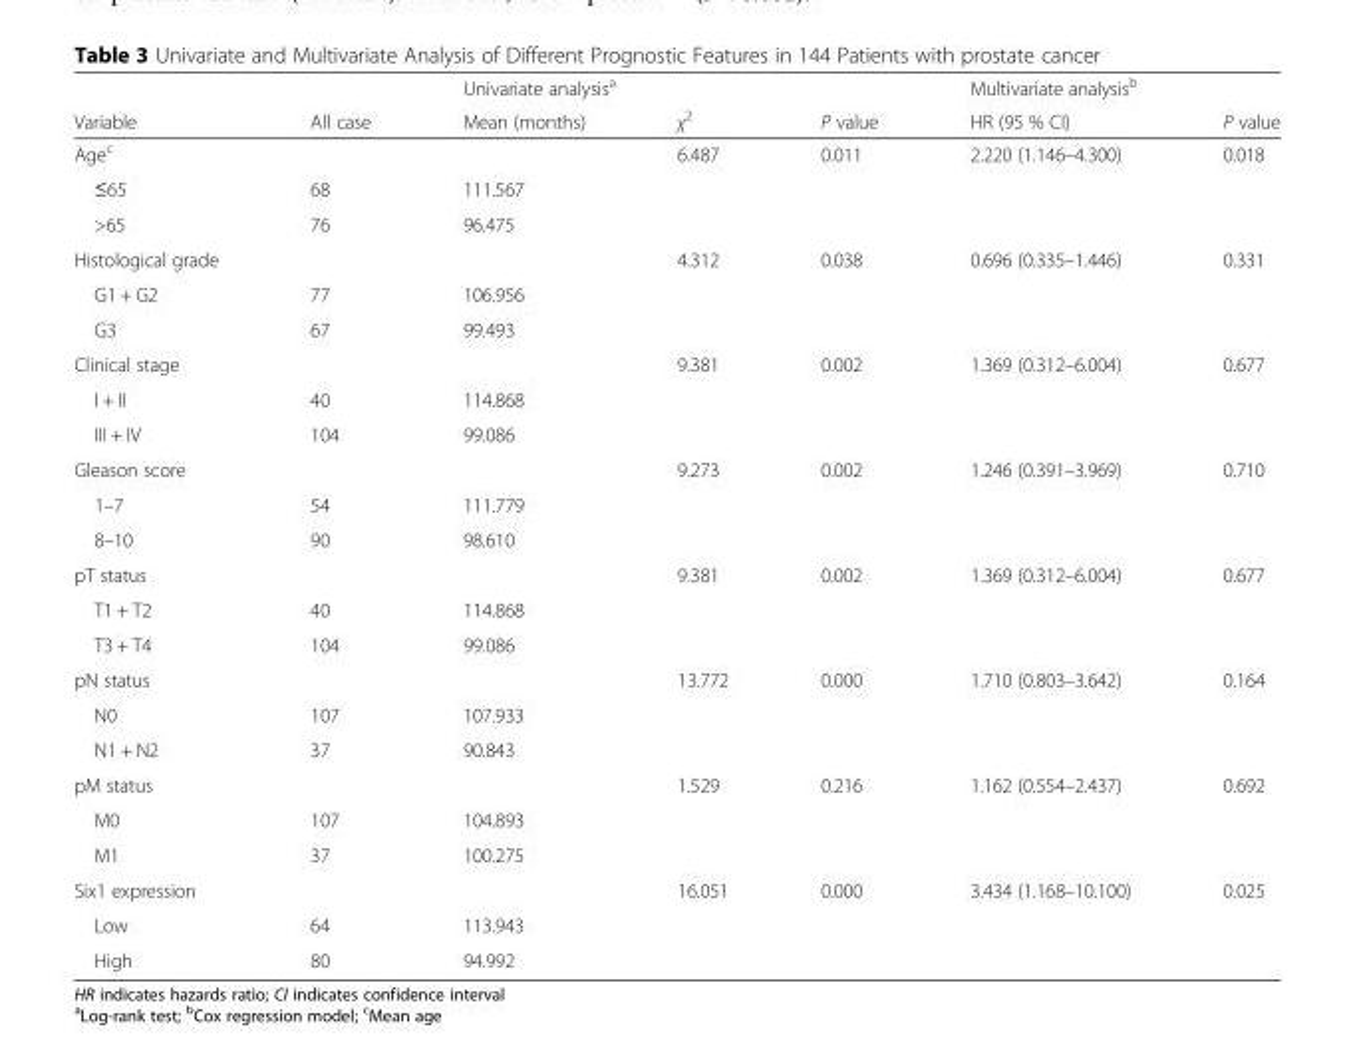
<table><thead><tr><td rowspan="2">Variable</td><td rowspan="2">All case</td><td colspan="2">Univariate analysis<sup>a</sup></td><td rowspan="2">P value</td><td colspan="2">Multivariate analysis<sup>b</sup></td></tr><tr><td>Mean (months)</td><td>χ<sup>2</sup></td><td>HR (95 % CI)</td><td>P value</td></tr></thead><tbody><tr><td>Age<sup>c</sup></td><td></td><td></td><td>6.487</td><td>0.011</td><td>2.220 (1.146–4.300)</td><td>0.018</td></tr><tr><td>≤65</td><td>68</td><td>111.567</td><td></td><td></td><td></td><td></td></tr><tr><td>&gt;65</td><td>76</td><td>96.475</td><td></td><td></td><td></td><td></td></tr><tr><td>Histological grade</td><td></td><td></td><td>4.312</td><td>0.038</td><td>0.696 (0.335–1.446)</td><td>0.331</td></tr><tr><td>G1 + G2</td><td>77</td><td>106.956</td><td></td><td></td><td></td><td></td></tr><tr><td>G3</td><td>67</td><td>99.493</td><td></td><td></td><td></td><td></td></tr><tr><td>Clinical stage</td><td></td><td></td><td>9.381</td><td>0.002</td><td>1.369 (0.312–6.004)</td><td>0.677</td></tr><tr><td>I + II</td><td>40</td><td>114.868</td><td></td><td></td><td></td><td></td></tr><tr><td>III + IV</td><td>104</td><td>99.086</td><td></td><td></td><td></td><td></td></tr><tr><td>Gleason score</td><td></td><td></td><td>9.273</td><td>0.002</td><td>1.246 (0.391–3.969)</td><td>0.710</td></tr><tr><td>1–7</td><td>54</td><td>111.779</td><td></td><td></td><td></td><td></td></tr><tr><td>8–10</td><td>90</td><td>98.610</td><td></td><td></td><td></td><td></td></tr><tr><td>pT status</td><td></td><td></td><td>9.381</td><td>0.002</td><td>1.369 (0.312–6.004)</td><td>0.677</td></tr><tr><td>T1 + T2</td><td>40</td><td>114.868</td><td></td><td></td><td></td><td></td></tr><tr><td>T3 + T4</td><td>104</td><td>99.086</td><td></td><td></td><td></td><td></td></tr><tr><td>pN status</td><td></td><td></td><td>13.772</td><td>0.000</td><td>1.710 (0.803–3.642)</td><td>0.164</td></tr><tr><td>N0</td><td>107</td><td>107.933</td><td></td><td></td><td></td><td></td></tr><tr><td>N1 + N2</td><td>37</td><td>90.843</td><td></td><td></td><td></td><td></td></tr><tr><td>pM status</td><td></td><td></td><td>1.529</td><td>0.216</td><td>1.162 (0.554–2.437)</td><td>0.692</td></tr><tr><td>M0</td><td>107</td><td>104.893</td><td></td><td></td><td></td><td></td></tr><tr><td>M1</td><td>37</td><td>100.275</td><td></td><td></td><td></td><td></td></tr><tr><td>Six1 expression</td><td></td><td></td><td>16.051</td><td>0.000</td><td>3.434 (1.168–10.100)</td><td>0.025</td></tr><tr><td>Low</td><td>64</td><td>113.943</td><td></td><td></td><td></td><td></td></tr><tr><td>High</td><td>80</td><td>94.992</td><td></td><td></td><td></td><td></td></tr></tbody></table>